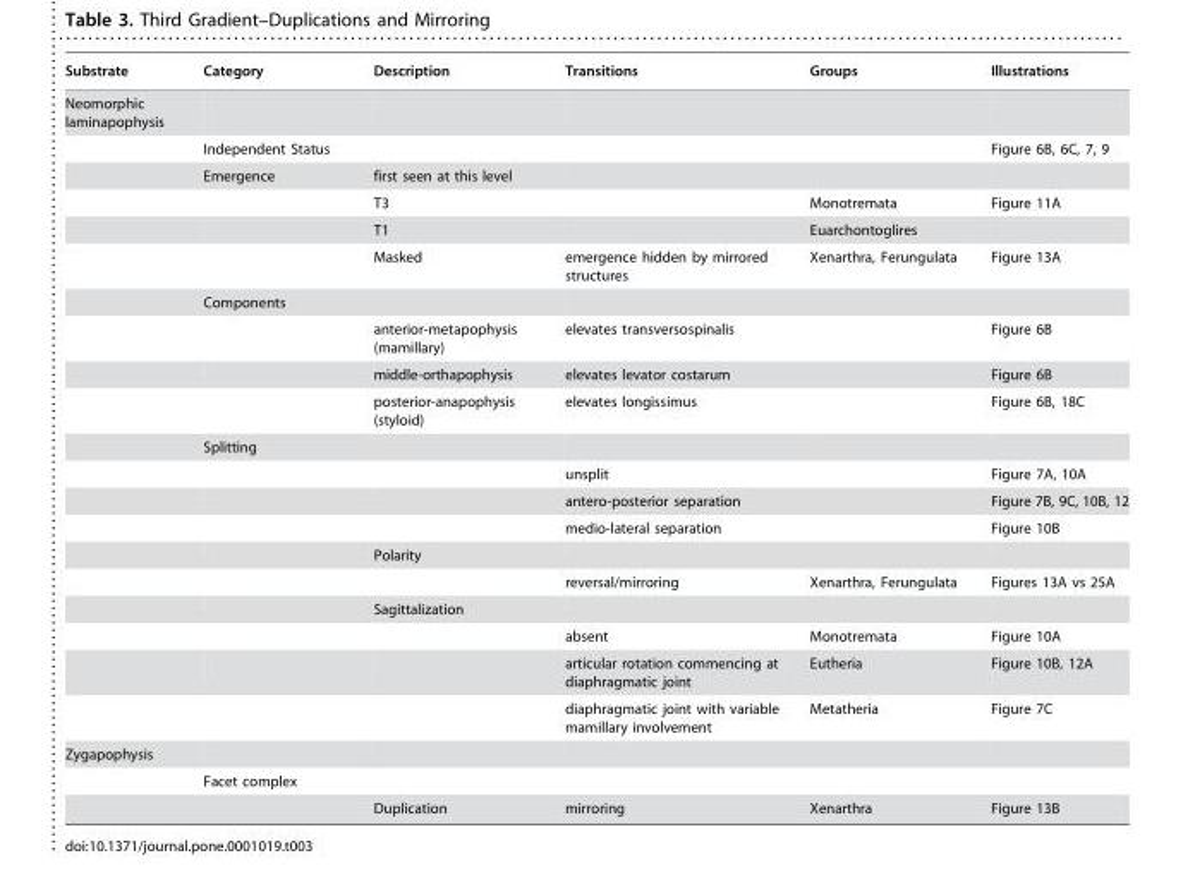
<table><thead><tr><td>Substrate</td><td>Category</td><td>Description</td><td>Transitions</td><td>Groups</td><td>Illustrations</td></tr></thead><tbody><tr><td colspan="6">Neomorphic laminapophysis</td></tr><tr><td></td><td>Independent Status</td><td></td><td></td><td></td><td>Figure 6B, 6C, 7, 9</td></tr><tr><td></td><td>Emergence</td><td>first seen at this level</td><td></td><td></td><td></td></tr><tr><td></td><td></td><td>T3</td><td></td><td>Monotremata</td><td>Figure 11A</td></tr><tr><td></td><td></td><td>T1</td><td></td><td>Euarchontoglires</td><td></td></tr><tr><td></td><td></td><td>Masked</td><td>emergence hidden by mirrored structures</td><td>Xenarthra, Ferungulata</td><td>Figure 13A</td></tr><tr><td></td><td>Components</td><td></td><td></td><td></td><td></td></tr><tr><td></td><td></td><td>anterior-metapophysis (mamillary)</td><td>elevates transversospinalis</td><td></td><td>Figure 6B</td></tr><tr><td></td><td></td><td>middle-orthapophysis</td><td>elevates levator costarum</td><td></td><td>Figure 6B</td></tr><tr><td></td><td></td><td>posterior-anapophysis (styloid)</td><td>elevates longissimus</td><td></td><td>Figure 6B, 18C</td></tr><tr><td></td><td>Splitting</td><td></td><td></td><td></td><td></td></tr><tr><td></td><td></td><td></td><td>unsplit</td><td></td><td>Figure 7A, 10A</td></tr><tr><td></td><td></td><td></td><td>antero-posterior separation</td><td></td><td>Figure 7B, 9C, 10B, 12</td></tr><tr><td></td><td></td><td></td><td>medio-lateral separation</td><td></td><td>Figure 10B</td></tr><tr><td></td><td></td><td>Polarity</td><td></td><td></td><td></td></tr><tr><td></td><td></td><td></td><td>reversal/mirroring</td><td>Xenarthra, Ferungulata</td><td>Figures 13A vs 25A</td></tr><tr><td></td><td></td><td>Sagittalization</td><td></td><td></td><td></td></tr><tr><td></td><td></td><td></td><td>absent</td><td>Monotremata</td><td>Figure 10A</td></tr><tr><td></td><td></td><td></td><td>articular rotation commencing at diaphragmatic joint</td><td>Eutheria</td><td>Figure 10B, 12A</td></tr><tr><td></td><td></td><td></td><td>diaphragmatic joint with variable mamillary involvement</td><td>Metatheria</td><td>Figure 7C</td></tr><tr><td colspan="6">Zygapophysis</td></tr><tr><td></td><td>Facet complex</td><td></td><td></td><td></td><td></td></tr><tr><td></td><td></td><td>Duplication</td><td>mirroring</td><td>Xenarthra</td><td>Figure 13B</td></tr></tbody></table>